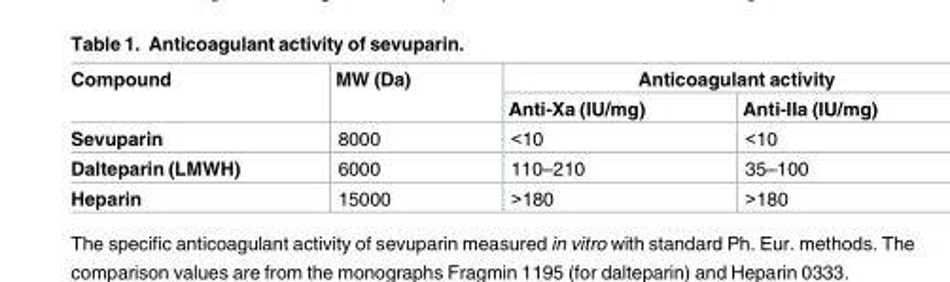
<table><thead><tr><td rowspan="2">Compound</td><td rowspan="2">MW (Da)</td><td colspan="2">Anticoagulant activity</td></tr><tr><td>Anti-Xa (IU/mg)</td><td>Anti-IIa (IU/mg)</td></tr></thead><tbody><tr><td>Sevuparin</td><td>8000</td><td>&lt;10</td><td>&lt;10</td></tr><tr><td>Dalteparin (LMWH)</td><td>6000</td><td>110–210</td><td>35–100</td></tr><tr><td>Heparin</td><td>15000</td><td>&gt;180</td><td>&gt;180</td></tr></tbody></table>